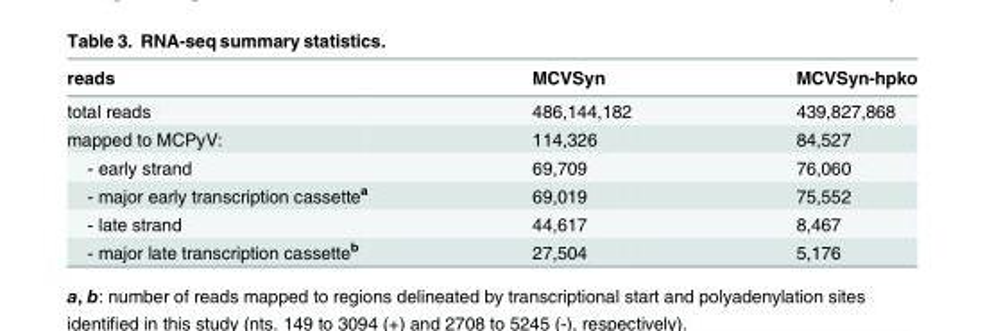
<table><thead><tr><td>reads</td><td>MCVSyn</td><td>MCVSyn-hpko</td></tr></thead><tbody><tr><td>total reads</td><td>486,144,182</td><td>439,827,868</td></tr><tr><td>mapped to MCPyV:</td><td>114,326</td><td>84,527</td></tr><tr><td>- early strand</td><td>69,709</td><td>76,060</td></tr><tr><td>- major early transcription cassette<sup>a</sup></td><td>69,019</td><td>75,552</td></tr><tr><td>- late strand</td><td>44,617</td><td>8,467</td></tr><tr><td>- major late transcription cassette<sup>b</sup></td><td>27,504</td><td>5,176</td></tr></tbody></table>